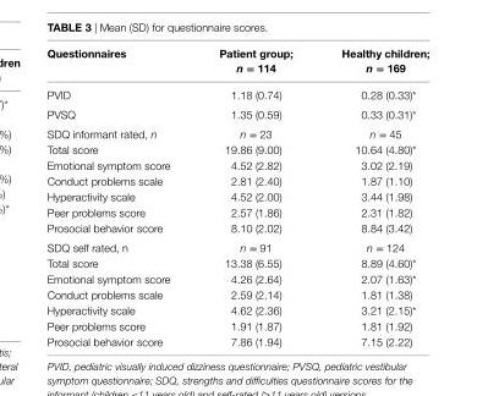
<table><thead><tr><td>Questionnaires</td><td>Patient group; n = 114</td><td>healthy children; n = 169</td></tr></thead><tbody><tr><td>PVID</td><td>1.18 (0.74)</td><td>0.28 (0.33)*</td></tr><tr><td>PVSQ</td><td>1.35 (0.59)</td><td>0.33 (0.31)*</td></tr><tr><td>SDQ informant rated, n</td><td>n = 23</td><td>n = 45</td></tr><tr><td>Total score</td><td>19.86 (9.00)</td><td>10.64 (4.80)*</td></tr><tr><td>Emotional symptom score</td><td>4.52 (2.82)</td><td>3.02 (2.19)</td></tr><tr><td>Conduct problems scale</td><td>2.81 (2.40)</td><td>1.87 (1.10)</td></tr><tr><td>Hyperactivity scale</td><td>4.52 (2.00)</td><td>3.44 (1.98)</td></tr><tr><td>Peer problems score</td><td>2.57 (1.86)</td><td>2.31 (1.82)</td></tr><tr><td>Prosocial behavior score</td><td>8.10 (2.02)</td><td>8.84 (3.42)</td></tr><tr><td>SDQ self rated, n</td><td>n = 91</td><td>n = 124</td></tr><tr><td>Total score</td><td>13.38 (6.55)</td><td>8.89 (4.60)*</td></tr><tr><td>Emotional symptom score</td><td>4.26 (2.64)</td><td>2.07 (1.63)*</td></tr><tr><td>Conduct problems scale</td><td>2.59 (2.14)</td><td>1.81 (1.38)</td></tr><tr><td>Hyperactivity scale</td><td>4.62 (2.36)</td><td>3.21 (2.15)*</td></tr><tr><td>Peer problems score</td><td>1.91 (1.87)</td><td>1.81 (1.92)</td></tr><tr><td>Prosocial behavior score</td><td>7.86 (1.94)</td><td>7.15 (2.22)</td></tr></tbody></table>